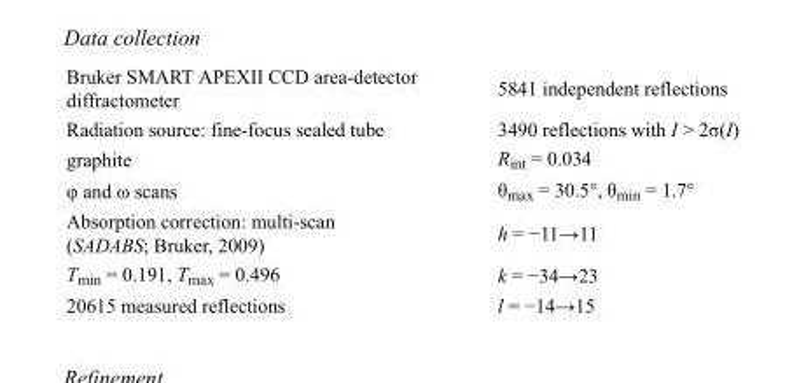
<table><tbody><tr><td>Bruker SMART APEXII CCD area-detector diffractometer</td><td>5841 independent reflections</td></tr><tr><td>Radiation source: fine-focus sealed tube</td><td>3490 reflections with I &gt; 2σ(I)</td></tr><tr><td>graphite</td><td>R<sub>int</sub> = 0.034</td></tr><tr><td>φ and ω scans</td><td>θ<sub>max</sub> = 30.5°, θ<sub>min</sub> = 1.7°</td></tr><tr><td>Absorption correction: multi-scan (SADABS; Bruker, 2009)</td><td>h = −11→11</td></tr><tr><td>T<sub>min</sub> = 0.191, T<sub>max</sub> = 0.496</td><td>k = −34→23</td></tr><tr><td>20615 measured reflections</td><td>l = −14→15</td></tr></tbody></table>